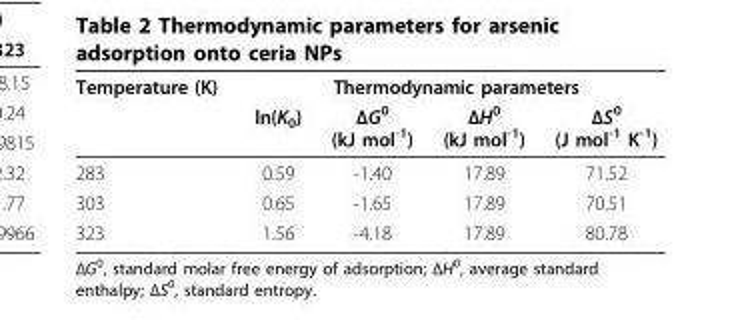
<table><thead><tr><td rowspan="2">Temperature (K)</td><td colspan="4">Thermodynamic parameters</td></tr><tr><td>ln(K<sub>0</sub>)</td><td>ΔG<sup>0</sup> (kJ mol<sup>-1</sup>)</td><td>ΔH<sup>0</sup> (kJ mol<sup>-1</sup>)</td><td>ΔS<sup>0</sup> (J mol<sup>-1</sup> K<sup>-1</sup>)</td></tr></thead><tbody><tr><td>283</td><td>0.59</td><td>-1.40</td><td>17.89</td><td>71.52</td></tr><tr><td>303</td><td>0.65</td><td>-1.65</td><td>17.89</td><td>70.51</td></tr><tr><td>323</td><td>1.56</td><td>-4.18</td><td>17.89</td><td>80.78</td></tr></tbody></table>